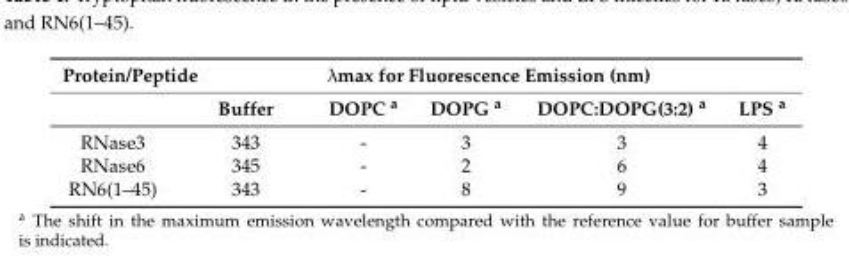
<table><thead><tr><td rowspan="2">Protein/Peptide</td><td colspan="5">λmax for Fluorescence Emission (nm)</td></tr><tr><td>Buffer</td><td>DOPC <sup>a</sup></td><td>DOPG <sup>a</sup></td><td>DOPC:DOPG(3:2) <sup>a</sup></td><td>LPS <sup>a</sup></td></tr></thead><tbody><tr><td>RNase3</td><td>343</td><td>-</td><td>3</td><td>3</td><td>4</td></tr><tr><td>RNase6</td><td>345</td><td>-</td><td>2</td><td>6</td><td>4</td></tr><tr><td>RN6(1–45)</td><td>343</td><td>-</td><td>8</td><td>9</td><td>3</td></tr></tbody></table>